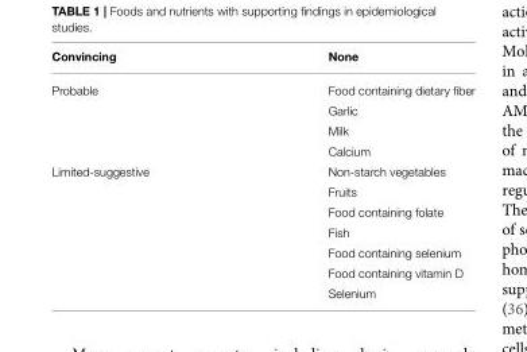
<table><thead><tr><td>Convincing</td><td>None</td></tr></thead><tbody><tr><td rowspan="4">Probable</td><td>Food containing dietary fiber</td></tr><tr><td>Garlic</td></tr><tr><td>Milk</td></tr><tr><td>Calcium</td></tr><tr><td rowspan="7">Limited-suggestive</td><td>Non-starch vegetables</td></tr><tr><td>Fruits</td></tr><tr><td>Food containing folate</td></tr><tr><td>Fish</td></tr><tr><td>Food containing selenium</td></tr><tr><td>Food containing vitamin D</td></tr><tr><td>Selenium</td></tr></tbody></table>